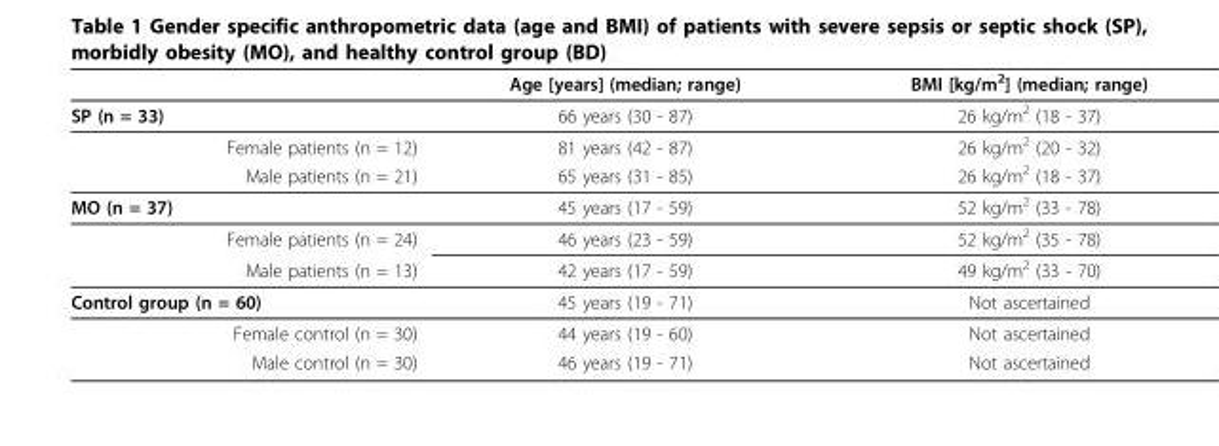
<table><thead><tr><td></td><td>Age [years] (median; range)</td><td>BMI [kg/m<sup>2</sup>] (median; range)</td></tr></thead><tbody><tr><td>SP (n = 33)</td><td>66 years (30 - 87)</td><td>26 kg/m<sup>2</sup> (18 - 37)</td></tr><tr><td>Female patients (n = 12)</td><td>81 years (42 - 87)</td><td>26 kg/m<sup>2</sup> (20 - 32)</td></tr><tr><td>Male patients (n = 21)</td><td>65 years (31 - 85)</td><td>26 kg/m<sup>2</sup> (18 - 37)</td></tr><tr><td>MO (n = 37)</td><td>45 years (17 - 59)</td><td>52 kg/m<sup>2</sup> (33 - 78)</td></tr><tr><td>Female patients (n = 24)</td><td>46 years (23 - 59)</td><td>52 kg/m<sup>2</sup> (35 - 78)</td></tr><tr><td>Male patients (n = 13)</td><td>42 years (17 - 59)</td><td>49 kg/m<sup>2</sup> (33 - 70)</td></tr><tr><td>Control group (n = 60)</td><td>45 years (19 - 71)</td><td>Not ascertained</td></tr><tr><td>Female control (n = 30)</td><td>44 years (19 - 60)</td><td>Not ascertained</td></tr><tr><td>Male control (n = 30)</td><td>46 years (19 - 71)</td><td>Not ascertained</td></tr></tbody></table>